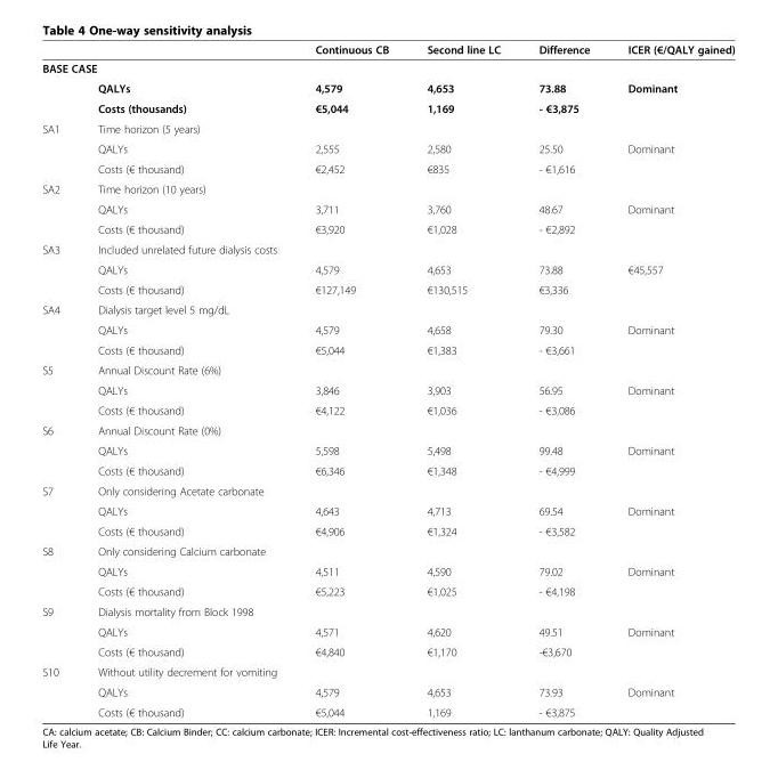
<table><thead><tr><td></td><td></td><td>Continuous CB</td><td>Second line LC</td><td>Difference</td><td>ICER (€/QALY gained)</td></tr></thead><tbody><tr><td colspan="6">BASE CASE</td></tr><tr><td></td><td>QALYs</td><td>4,579</td><td>4,653</td><td>73.88</td><td rowspan="2">Dominant</td></tr><tr><td></td><td>Costs (thousands)</td><td>€5,044</td><td>1,169</td><td>- €3,875</td></tr><tr><td rowspan="3">SA1</td><td>Time horizon (5 years)</td><td></td><td></td><td></td><td></td></tr><tr><td>QALYs</td><td>2,555</td><td>2,580</td><td>25.50</td><td rowspan="2">Dominant</td></tr><tr><td>Costs (€ thousand)</td><td>€2,452</td><td>€835</td><td>- €1,616</td></tr><tr><td rowspan="3">SA2</td><td>Time horizon (10 years)</td><td></td><td></td><td></td><td></td></tr><tr><td>QALYs</td><td>3,711</td><td>3,760</td><td>48.67</td><td rowspan="2">Dominant</td></tr><tr><td>Costs (€ thousand)</td><td>€3,920</td><td>€1,028</td><td>- €2,892</td></tr><tr><td rowspan="3">SA3</td><td colspan="2">Included unrelated future dialysis costs</td><td></td><td></td><td></td></tr><tr><td>QALYs</td><td>4,579</td><td>4,653</td><td>73.88</td><td rowspan="2">€45,557</td></tr><tr><td>Costs (€ thousand)</td><td>€127,149</td><td>€130,515</td><td>€3,336</td></tr><tr><td rowspan="3">SA4</td><td colspan="2">Dialysis target level 5 mg/dL</td><td></td><td></td><td></td></tr><tr><td>QALYs</td><td>4,579</td><td>4,658</td><td>79.30</td><td rowspan="2">Dominant</td></tr><tr><td>Costs (€ thousand)</td><td>€5,044</td><td>€1,383</td><td>- €3,661</td></tr><tr><td rowspan="3">S5</td><td colspan="2">Annual Discount Rate (6%)</td><td></td><td></td><td></td></tr><tr><td>QALYs</td><td>3,846</td><td>3,903</td><td>56.95</td><td rowspan="2">Dominant</td></tr><tr><td>Costs (€ thousand)</td><td>€4,122</td><td>€1,036</td><td>- €3,086</td></tr><tr><td rowspan="3">S6</td><td colspan="2">Annual Discount Rate (0%)</td><td></td><td></td><td></td></tr><tr><td>QALYs</td><td>5,598</td><td>5,498</td><td>99.48</td><td rowspan="2">Dominant</td></tr><tr><td>Costs (€ thousand)</td><td>€6,346</td><td>€1,348</td><td>- €4,999</td></tr><tr><td rowspan="3">S7</td><td colspan="2">Only considering Acetate carbonate</td><td></td><td></td><td></td></tr><tr><td>QALYs</td><td>4,643</td><td>4,713</td><td>69.54</td><td rowspan="2">Dominant</td></tr><tr><td>Costs (€ thousand)</td><td>€4,906</td><td>€1,324</td><td>- €3,582</td></tr><tr><td rowspan="3">S8</td><td colspan="2">Only considering Calcium carbonate</td><td></td><td></td><td></td></tr><tr><td>QALYs</td><td>4,511</td><td>4,590</td><td>79.02</td><td rowspan="2">Dominant</td></tr><tr><td>Costs (€ thousand)</td><td>€5,223</td><td>€1,025</td><td>- €4,198</td></tr><tr><td rowspan="3">S9</td><td>Dialysis mortality from Block 1998</td><td></td><td></td><td></td><td></td></tr><tr><td>QALYs</td><td>4,571</td><td>4,620</td><td>49.51</td><td>Dominant</td></tr><tr><td>Costs (€ thousand)</td><td>€4,840</td><td>€1,170</td><td>-€3,670</td><td></td></tr><tr><td rowspan="3">S10</td><td>Without utility decrement for vomiting</td><td></td><td></td><td></td><td></td></tr><tr><td>QALYs</td><td>4,579</td><td>4,653</td><td>73.93</td><td>Dominant</td></tr><tr><td>Costs (€ thousand)</td><td>€5,044</td><td>1,169</td><td>- €3,875</td><td></td></tr></tbody></table>